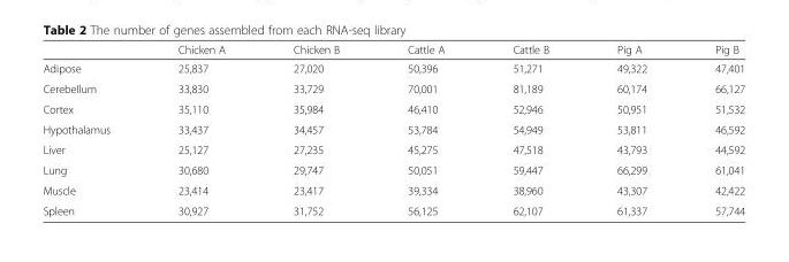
<table><thead><tr><td></td><td>Chicken A</td><td>Chicken B</td><td>Cattle A</td><td>Cattle B</td><td>Pig A</td><td>Pig B</td></tr></thead><tbody><tr><td>Adipose</td><td>25,837</td><td>27,020</td><td>50,396</td><td>51,271</td><td>49,322</td><td>47,401</td></tr><tr><td>Cerebellum</td><td>33,830</td><td>33,729</td><td>70,001</td><td>81,189</td><td>60,174</td><td>66,127</td></tr><tr><td>Cortex</td><td>35,110</td><td>35,984</td><td>46,410</td><td>52,946</td><td>50,951</td><td>51,532</td></tr><tr><td>Hypothalamus</td><td>33,437</td><td>34,457</td><td>53,784</td><td>54,949</td><td>53,811</td><td>46,592</td></tr><tr><td>Liver</td><td>25,127</td><td>27,235</td><td>45,275</td><td>47,518</td><td>43,793</td><td>44,592</td></tr><tr><td>Lung</td><td>30,680</td><td>29,747</td><td>50,051</td><td>59,447</td><td>66,299</td><td>61,041</td></tr><tr><td>Muscle</td><td>23,414</td><td>23,417</td><td>39,334</td><td>38,960</td><td>43,307</td><td>42,422</td></tr><tr><td>Spleen</td><td>30,927</td><td>31,752</td><td>56,125</td><td>62,107</td><td>61,337</td><td>57,744</td></tr></tbody></table>